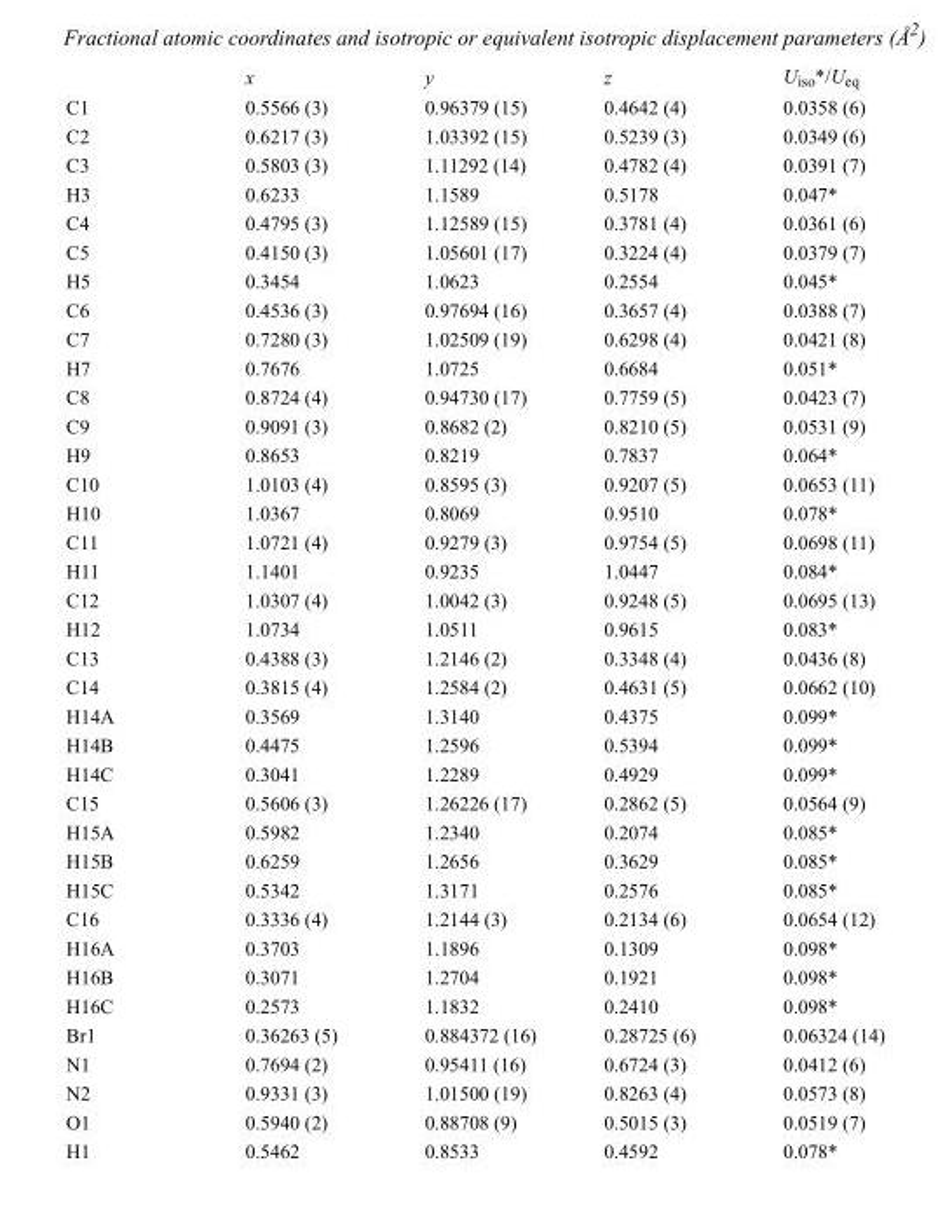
<table><thead><tr><td></td><td>x</td><td>y</td><td>z</td><td>U<sub>iso</sub>*/U<sub>eq</sub></td></tr></thead><tbody><tr><td>C1</td><td>0.5566 (3)</td><td>0.96379 (15)</td><td>0.4642 (4)</td><td>0.0358 (6)</td></tr><tr><td>C2</td><td>0.6217 (3)</td><td>1.03392 (15)</td><td>0.5239 (3)</td><td>0.0349 (6)</td></tr><tr><td>C3</td><td>0.5803 (3)</td><td>1.11292 (14)</td><td>0.4782 (4)</td><td>0.0391 (7)</td></tr><tr><td>H3</td><td>0.6233</td><td>1.1589</td><td>0.5178</td><td>0.047*</td></tr><tr><td>C4</td><td>0.4795 (3)</td><td>1.12589 (15)</td><td>0.3781 (4)</td><td>0.0361 (6)</td></tr><tr><td>C5</td><td>0.4150 (3)</td><td>1.05601 (17)</td><td>0.3224 (4)</td><td>0.0379 (7)</td></tr><tr><td>H5</td><td>0.3454</td><td>1.0623</td><td>0.2554</td><td>0.045*</td></tr><tr><td>C6</td><td>0.4536 (3)</td><td>0.97694 (16)</td><td>0.3657 (4)</td><td>0.0388 (7)</td></tr><tr><td>C7</td><td>0.7280 (3)</td><td>1.02509 (19)</td><td>0.6298 (4)</td><td>0.0421 (8)</td></tr><tr><td>H7</td><td>0.7676</td><td>1.0725</td><td>0.6684</td><td>0.051*</td></tr><tr><td>C8</td><td>0.8724 (4)</td><td>0.94730 (17)</td><td>0.7759 (5)</td><td>0.0423 (7)</td></tr><tr><td>C9</td><td>0.9091 (3)</td><td>0.8682 (2)</td><td>0.8210 (5)</td><td>0.0531 (9)</td></tr><tr><td>H9</td><td>0.8653</td><td>0.8219</td><td>0.7837</td><td>0.064*</td></tr><tr><td>C10</td><td>1.0103 (4)</td><td>0.8595 (3)</td><td>0.9207 (5)</td><td>0.0653 (11)</td></tr><tr><td>H10</td><td>1.0367</td><td>0.8069</td><td>0.9510</td><td>0.078*</td></tr><tr><td>C11</td><td>1.0721 (4)</td><td>0.9279 (3)</td><td>0.9754 (5)</td><td>0.0698 (11)</td></tr><tr><td>H11</td><td>1.1401</td><td>0.9235</td><td>1.0447</td><td>0.084*</td></tr><tr><td>C12</td><td>1.0307 (4)</td><td>1.0042 (3)</td><td>0.9248 (5)</td><td>0.0695 (13)</td></tr><tr><td>H12</td><td>1.0734</td><td>1.0511</td><td>0.9615</td><td>0.083*</td></tr><tr><td>C13</td><td>0.4388 (3)</td><td>1.2146 (2)</td><td>0.3348 (4)</td><td>0.0436 (8)</td></tr><tr><td>C14</td><td>0.3815 (4)</td><td>1.2584 (2)</td><td>0.4631 (5)</td><td>0.0662 (10)</td></tr><tr><td>H14A</td><td>0.3569</td><td>1.3140</td><td>0.4375</td><td>0.099*</td></tr><tr><td>H14B</td><td>0.4475</td><td>1.2596</td><td>0.5394</td><td>0.099*</td></tr><tr><td>H14C</td><td>0.3041</td><td>1.2289</td><td>0.4929</td><td>0.099*</td></tr><tr><td>C15</td><td>0.5606 (3)</td><td>1.26226 (17)</td><td>0.2862 (5)</td><td>0.0564 (9)</td></tr><tr><td>H15A</td><td>0.5982</td><td>1.2340</td><td>0.2074</td><td>0.085*</td></tr><tr><td>H15B</td><td>0.6259</td><td>1.2656</td><td>0.3629</td><td>0.085*</td></tr><tr><td>H15C</td><td>0.5342</td><td>1.3171</td><td>0.2576</td><td>0.085*</td></tr><tr><td>C16</td><td>0.3336 (4)</td><td>1.2144 (3)</td><td>0.2134 (6)</td><td>0.0654 (12)</td></tr><tr><td>H16A</td><td>0.3703</td><td>1.1896</td><td>0.1309</td><td>0.098*</td></tr><tr><td>H16B</td><td>0.3071</td><td>1.2704</td><td>0.1921</td><td>0.098*</td></tr><tr><td>H16C</td><td>0.2573</td><td>1.1832</td><td>0.2410</td><td>0.098*</td></tr><tr><td>Br1</td><td>0.36263 (5)</td><td>0.884372 (16)</td><td>0.28725 (6)</td><td>0.06324 (14)</td></tr><tr><td>N1</td><td>0.7694 (2)</td><td>0.95411 (16)</td><td>0.6724 (3)</td><td>0.0412 (6)</td></tr><tr><td>N2</td><td>0.9331 (3)</td><td>1.01500 (19)</td><td>0.8263 (4)</td><td>0.0573 (8)</td></tr><tr><td>O1</td><td>0.5940 (2)</td><td>0.88708 (9)</td><td>0.5015 (3)</td><td>0.0519 (7)</td></tr><tr><td>H1</td><td>0.5462</td><td>0.8533</td><td>0.4592</td><td>0.078*</td></tr></tbody></table>